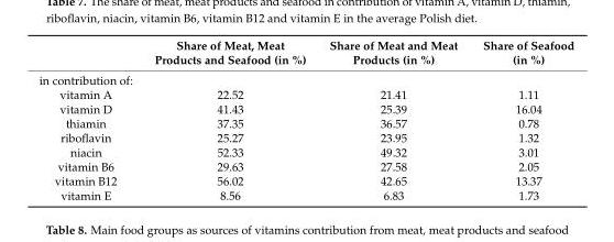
<table><thead><tr><td></td><td>Share of Meat, Meat Products and Seafood (in %)</td><td>Share of Meat and Meat Products (in %)</td><td>Share of Seafood (in %)</td></tr></thead><tbody><tr><td colspan="4">in contribution of:</td></tr><tr><td>vitamin A</td><td>22.52</td><td>21.41</td><td>1.11</td></tr><tr><td>vitamin D</td><td>41.43</td><td>25.39</td><td>16.04</td></tr><tr><td>thiamin</td><td>37.35</td><td>36.57</td><td>0.78</td></tr><tr><td>riboflavin</td><td>25.27</td><td>23.95</td><td>1.32</td></tr><tr><td>niacin</td><td>52.33</td><td>49.32</td><td>3.01</td></tr><tr><td>vitamin B6</td><td>29.63</td><td>27.58</td><td>2.05</td></tr><tr><td>vitamin B12</td><td>56.02</td><td>42.65</td><td>13.37</td></tr><tr><td>vitamin E</td><td>8.56</td><td>6.83</td><td>1.73</td></tr></tbody></table>